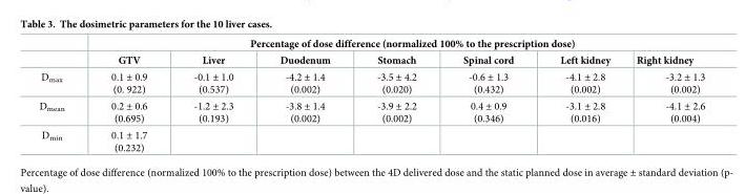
<table><thead><tr><td rowspan="2"></td><td colspan="7">Percentage of dose difference (normalized 100% to the prescription dose)</td></tr><tr><td>GTV</td><td>Liver</td><td>Duodenum</td><td>Stomach</td><td>Spinal cord</td><td>Left kidney</td><td>Right kidney</td></tr></thead><tbody><tr><td>D<sub>max</sub></td><td>0.1 ± 0.9 (0. 922)</td><td>-0.1 ± 1.0 (0.537)</td><td>-4.2 ± 1.4 (0.002)</td><td>-3.5 ± 4.2 (0.020)</td><td>-0.6 ± 1.3 (0.432)</td><td>-4.1 ± 2.8 (0.002)</td><td>-3.2 ± 1.3 (0.002)</td></tr><tr><td>D<sub>mean</sub></td><td>0.2 ± 0.6 (0.695)</td><td>-1.2 ± 2.3 (0.193)</td><td>-3.8 ± 1.4 (0.002)</td><td>-3.9 ± 2.2 (0.002)</td><td>0.4 ± 0.9 (0.346)</td><td>-3.1 ± 2.8 (0.016)</td><td>-4.1 ± 2.6 (0.004)</td></tr><tr><td>D<sub>min</sub></td><td>0.1 ± 1.7 (0.232)</td><td></td><td></td><td></td><td></td><td></td><td></td></tr></tbody></table>